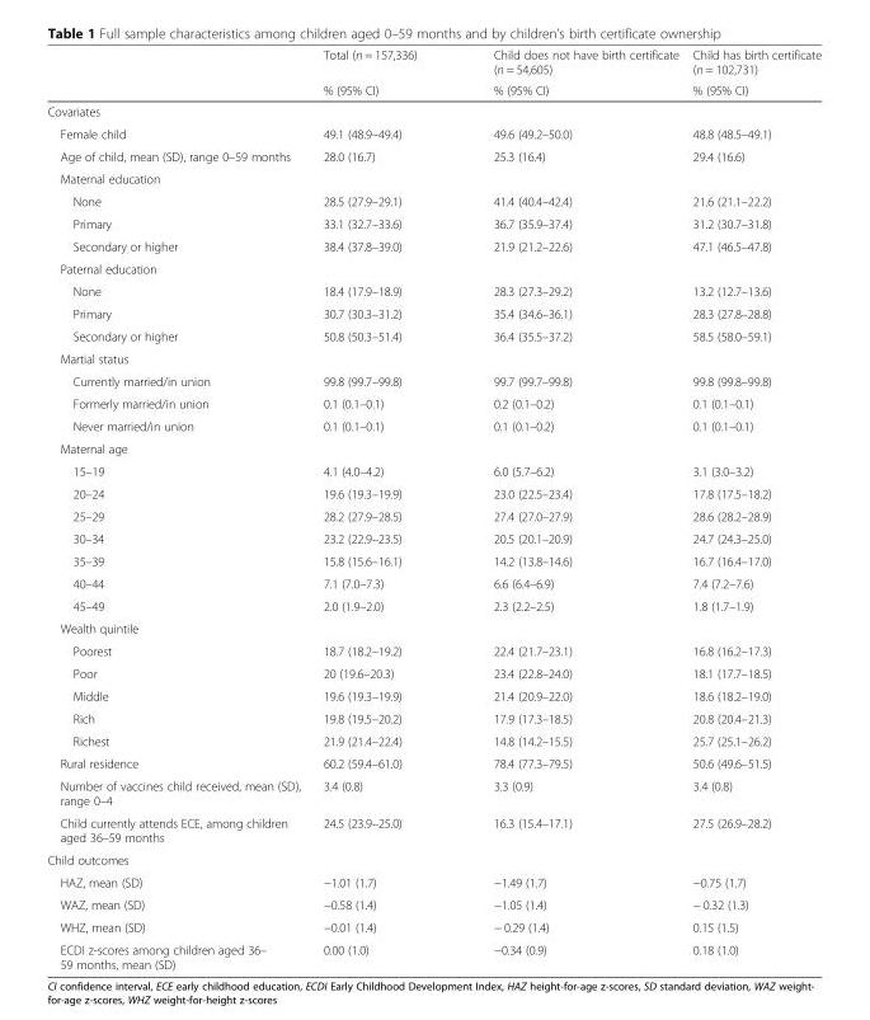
<table><thead><tr><td rowspan="2"></td><td rowspan="2">Total (n = 157,336) % (95% CI)</td><td rowspan="2">Child does not have birth certificate (n = 54,605) % (95% CI)</td><td rowspan="2">Child has birth certificate (n = 102,731) % (95% CI)</td></tr><tr></tr></thead><tbody><tr><td colspan="4">Covariates</td></tr><tr><td>Female child</td><td>49.1 (48.9–49.4)</td><td>49.6 (49.2–50.0)</td><td>48.8 (48.5–49.1)</td></tr><tr><td>Age of child, mean (SD), range 0–59 months</td><td>28.0 (16.7)</td><td>25.3 (16.4)</td><td>29.4 (16.6)</td></tr><tr><td colspan="4">Maternal education</td></tr><tr><td>None</td><td>28.5 (27.9–29.1)</td><td>41.4 (40.4–42.4)</td><td>21.6 (21.1–22.2)</td></tr><tr><td>Primary</td><td>33.1 (32.7–33.6)</td><td>36.7 (35.9–37.4)</td><td>31.2 (30.7–31.8)</td></tr><tr><td>Secondary or higher</td><td>38.4 (37.8–39.0)</td><td>21.9 (21.2–22.6)</td><td>47.1 (46.5–47.8)</td></tr><tr><td colspan="4">Paternal education</td></tr><tr><td>None</td><td>18.4 (17.9–18.9)</td><td>28.3 (27.3–29.2)</td><td>13.2 (12.7–13.6)</td></tr><tr><td>Primary</td><td>30.7 (30.3–31.2)</td><td>35.4 (34.6–36.1)</td><td>28.3 (27.8–28.8)</td></tr><tr><td>Secondary or higher</td><td>50.8 (50.3–51.4)</td><td>36.4 (35.5–37.2)</td><td>58.5 (58.0–59.1)</td></tr><tr><td colspan="4">Martial status</td></tr><tr><td>Currently married/in union</td><td>99.8 (99.7–99.8)</td><td>99.7 (99.7–99.8)</td><td>99.8 (99.8–99.8)</td></tr><tr><td>Formerly married/in union</td><td>0.1 (0.1–0.1)</td><td>0.2 (0.1–0.2)</td><td>0.1 (0.1–0.1)</td></tr><tr><td>Never married/in union</td><td>0.1 (0.1–0.1)</td><td>0.1 (0.1–0.2)</td><td>0.1 (0.1–0.1)</td></tr><tr><td colspan="4">Maternal age</td></tr><tr><td>15–19</td><td>4.1 (4.0–4.2)</td><td>6.0 (5.7–6.2)</td><td>3.1 (3.0–3.2)</td></tr><tr><td>20–24</td><td>19.6 (19.3–19.9)</td><td>23.0 (22.5–23.4)</td><td>17.8 (17.5–18.2)</td></tr><tr><td>25–29</td><td>28.2 (27.9–28.5)</td><td>27.4 (27.0–27.9)</td><td>28.6 (28.2–28.9)</td></tr><tr><td>30–34</td><td>23.2 (22.9–23.5)</td><td>20.5 (20.1–20.9)</td><td>24.7 (24.3–25.0)</td></tr><tr><td>35–39</td><td>15.8 (15.6–16.1)</td><td>14.2 (13.8–14.6)</td><td>16.7 (16.4–17.0)</td></tr><tr><td>40–44</td><td>7.1 (7.0–7.3)</td><td>6.6 (6.4–6.9)</td><td>7.4 (7.2–7.6)</td></tr><tr><td>45–49</td><td>2.0 (1.9–2.0)</td><td>2.3 (2.2–2.5)</td><td>1.8 (1.7–1.9)</td></tr><tr><td colspan="4">Wealth quintile</td></tr><tr><td>Poorest</td><td>18.7 (18.2–19.2)</td><td>22.4 (21.7–23.1)</td><td>16.8 (16.2–17.3)</td></tr><tr><td>Poor</td><td>20 (19.6–20.3)</td><td>23.4 (22.8–24.0)</td><td>18.1 (17.7–18.5)</td></tr><tr><td>Middle</td><td>19.6 (19.3–19.9)</td><td>21.4 (20.9–22.0)</td><td>18.6 (18.2–19.0)</td></tr><tr><td>Rich</td><td>19.8 (19.5–20.2)</td><td>17.9 (17.3–18.5)</td><td>20.8 (20.4–21.3)</td></tr><tr><td>Richest</td><td>21.9 (21.4–22.4)</td><td>14.8 (14.2–15.5)</td><td>25.7 (25.1–26.2)</td></tr><tr><td>Rural residence</td><td>60.2 (59.4–61.0)</td><td>78.4 (77.3–79.5)</td><td>50.6 (49.6–51.5)</td></tr><tr><td>Number of vaccines child received, mean (SD), range 0–4</td><td>3.4 (0.8)</td><td>3.3 (0.9)</td><td>3.4 (0.8)</td></tr><tr><td>Child currently attends ECE, among children aged 36–59 months</td><td>24.5 (23.9–25.0)</td><td>16.3 (15.4–17.1)</td><td>27.5 (26.9–28.2)</td></tr><tr><td colspan="4">Child outcomes</td></tr><tr><td>HAZ, mean (SD)</td><td>−1.01 (1.7)</td><td>−1.49 (1.7)</td><td>−0.75 (1.7)</td></tr><tr><td>WAZ, mean (SD)</td><td>−0.58 (1.4)</td><td>−1.05 (1.4)</td><td>− 0.32 (1.3)</td></tr><tr><td>WHZ, mean (SD)</td><td>−0.01 (1.4)</td><td>− 0.29 (1.4)</td><td>0.15 (1.5)</td></tr><tr><td>ECDI z-scores among children aged 36– 59 months, mean (SD)</td><td>0.00 (1.0)</td><td>−0.34 (0.9)</td><td>0.18 (1.0)</td></tr></tbody></table>